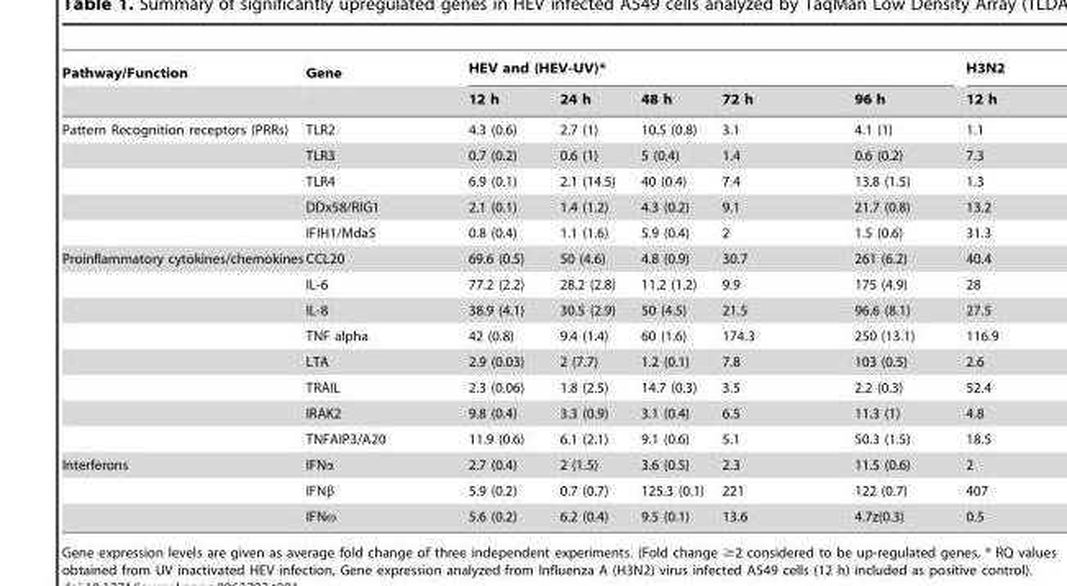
<table><thead><tr><td rowspan="2">Pathway/Function</td><td rowspan="2">Gene</td><td colspan="5">HEV and (HEV-UV)*</td><td rowspan="2">H3N2 12 h</td></tr><tr><td>12 h</td><td>24 h</td><td>48 h</td><td>72 h</td><td>96 h</td></tr></thead><tbody><tr><td rowspan="5">Pattern Recognition receptors (PRRs)</td><td>TLR2</td><td>4.3 (0.6)</td><td>2.7 (1)</td><td>10.5 (0.8)</td><td>3.1</td><td>4.1 (1)</td><td>1.1</td></tr><tr><td>TLR3</td><td>0.7 (0.2)</td><td>0.6 (1)</td><td>5 (0.4)</td><td>1.4</td><td>0.6 (0.2)</td><td>7.3</td></tr><tr><td>TLR4</td><td>6.9 (0.1)</td><td>2.1 (14.5)</td><td>40 (0.4)</td><td>7.4</td><td>13.8 (1.5)</td><td>1.3</td></tr><tr><td>DDx58/RIG1</td><td>2.1 (0.1)</td><td>1.4 (1.2)</td><td>4.3 (0.2)</td><td>9.1</td><td>21.7 (0.8)</td><td>13.2</td></tr><tr><td>IFIH1/Mda5</td><td>0.8 (0.4)</td><td>1.1 (1.6)</td><td>5.9 (0.4)</td><td>2</td><td>1.5 (0.6)</td><td>31.3</td></tr><tr><td rowspan="8">Proinflammatory cytokines/chemokines</td><td>CCL20</td><td>69.6 (0.5)</td><td>50 (4.6)</td><td>4.8 (0.9)</td><td>30.7</td><td>261 (6.2)</td><td>40.4</td></tr><tr><td>IL-6</td><td>77.2 (2.2)</td><td>28.2 (2.8)</td><td>11.2 (1.2)</td><td>9.9</td><td>175 (4.9)</td><td>28</td></tr><tr><td>IL-8</td><td>38.9 (4.1)</td><td>30.5 (2.9)</td><td>50 (4.5)</td><td>21.5</td><td>96.6 (8.1)</td><td>27.5</td></tr><tr><td>TNF alpha</td><td>42 (0.8)</td><td>9.4 (1.4)</td><td>60 (1.6)</td><td>174.3</td><td>250 (13.1)</td><td>116.9</td></tr><tr><td>LTA</td><td>2.9 (0.03)</td><td>2 (7.7)</td><td>1.2 (0.1)</td><td>7.8</td><td>103 (0.5)</td><td>2.6</td></tr><tr><td>TRAIL</td><td>2.3 (0.06)</td><td>1.8 (2.5)</td><td>14.7 (0.3)</td><td>3.5</td><td>2.2 (0.3)</td><td>52.4</td></tr><tr><td>IRAK2</td><td>9.8 (0.4)</td><td>3.3 (0.9)</td><td>3.1 (0.4)</td><td>6.5</td><td>11.3 (1)</td><td>4.8</td></tr><tr><td>TNFAIP3/A20</td><td>11.9 (0.6)</td><td>6.1 (2.1)</td><td>9.1 (0.6)</td><td>5.1</td><td>50.3 (1.5)</td><td>18.5</td></tr><tr><td rowspan="3">Interferons</td><td>IFNα</td><td>2.7 (0.4)</td><td>2 (1.5)</td><td>3.6 (0.5)</td><td>2.3</td><td>11.5 (0.6)</td><td>2</td></tr><tr><td>IFNβ</td><td>5.9 (0.2)</td><td>0.7 (0.7)</td><td>125.3 (0.1)</td><td>221</td><td>122 (0.7)</td><td>407</td></tr><tr><td>IFNω</td><td>5.6 (0.2)</td><td>6.2 (0.4)</td><td>9.5 (0.1)</td><td>13.6</td><td>4.7z(0.3)</td><td>0.5</td></tr></tbody></table>